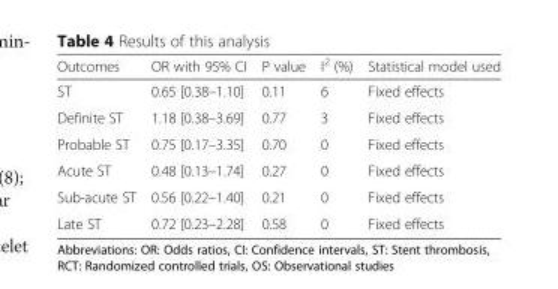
<table><thead><tr><td>Outcomes</td><td>OR with 95% CI</td><td>P value</td><td>I<sup>2</sup> (%)</td><td>Statistical model used</td></tr></thead><tbody><tr><td>ST</td><td>0.65 [0.38–1.10]</td><td>0.11</td><td>6</td><td>Fixed effects</td></tr><tr><td>Definite ST</td><td>1.18 [0.38–3.69]</td><td>0.77</td><td>3</td><td>Fixed effects</td></tr><tr><td>Probable ST</td><td>0.75 [0.17–3.35]</td><td>0.70</td><td>0</td><td>Fixed effects</td></tr><tr><td>Acute ST</td><td>0.48 [0.13–1.74]</td><td>0.27</td><td>0</td><td>Fixed effects</td></tr><tr><td>Sub-acute ST</td><td>0.56 [0.22–1.40]</td><td>0.21</td><td>0</td><td>Fixed effects</td></tr><tr><td>Late ST</td><td>0.72 [0.23–2.28]</td><td>0.58</td><td>0</td><td>Fixed effects</td></tr></tbody></table>